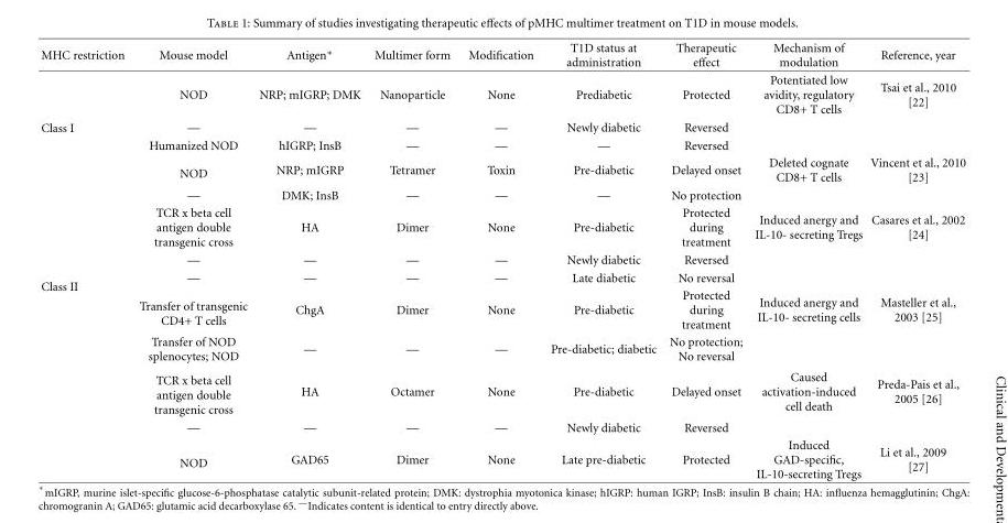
<table><thead><tr><td>MHC restriction</td><td>Mouse model</td><td>Antigen∗</td><td>Multimer form</td><td>Modification</td><td>T1D status at administration</td><td>Therapeutic effect</td><td>Mechanism of modulation</td><td>Reference, year</td></tr></thead><tbody><tr><td rowspan="5">Class I</td><td>NOD</td><td>NRP; mIGRP; DMK</td><td>Nanoparticle</td><td>None</td><td>Prediabetic</td><td>Protected</td><td>Potentiated low avidity, regulatory CD8+ T cells</td><td>Tsai et al., 2010 [22]</td></tr><tr><td>—</td><td>—</td><td>—</td><td>—</td><td>Newly diabetic</td><td>Reversed</td><td></td><td></td></tr><tr><td>Humanized NOD</td><td>hIGRP; InsB</td><td>—</td><td>—</td><td>—</td><td>Reversed</td><td></td><td></td></tr><tr><td>NOD</td><td>NRP; mIGRP</td><td>Tetramer</td><td>Toxin</td><td>Pre-diabetic</td><td>Delayed onset</td><td>Deleted cognate CD8+ T cells</td><td>Vincent et al., 2010 [23]</td></tr><tr><td>—</td><td>DMK; InsB</td><td>—</td><td>—</td><td>—</td><td>No protection</td><td></td><td></td></tr><tr><td rowspan="8">Class II</td><td>TCR x beta cell antigen double transgenic cross</td><td>HA</td><td>Dimer</td><td>None</td><td>Pre-diabetic</td><td>Protected during treatment</td><td>Induced anergy and IL-10- secreting Tregs</td><td>Casares et al., 2002 [24]</td></tr><tr><td>—</td><td>—</td><td>—</td><td>—</td><td>Newly diabetic</td><td>Reversed</td><td></td><td></td></tr><tr><td>—</td><td>—</td><td>—</td><td>—</td><td>Late diabetic</td><td>No reversal</td><td></td><td></td></tr><tr><td>Transfer of transgenic CD4+ T cells</td><td>ChgA</td><td>Dimer</td><td>None</td><td>Pre-diabetic</td><td>Protected during treatment</td><td>Induced anergy and IL-10- secreting cells</td><td>Masteller et al., 2003 [25]</td></tr><tr><td>Transfer of NOD splenocytes; NOD</td><td>—</td><td>—</td><td>—</td><td>Pre-diabetic; diabetic</td><td>No protection; No reversal</td><td></td><td></td></tr><tr><td>TCR x beta cell antigen double transgenic cross</td><td>HA</td><td>Octamer</td><td>None</td><td>Pre-diabetic</td><td>Delayed onset</td><td>Caused activation-induced cell death</td><td>Preda-Pais et al., 2005 [26]</td></tr><tr><td>—</td><td>—</td><td>—</td><td>—</td><td>Newly diabetic</td><td>Reversed</td><td></td><td></td></tr><tr><td>NOD</td><td>GAD65</td><td>Dimer</td><td>None</td><td>Late pre-diabetic</td><td>Protected</td><td>Induced GAD-specific, IL-10-secreting Tregs</td><td>Li et al., 2009 [27]</td></tr></tbody></table>